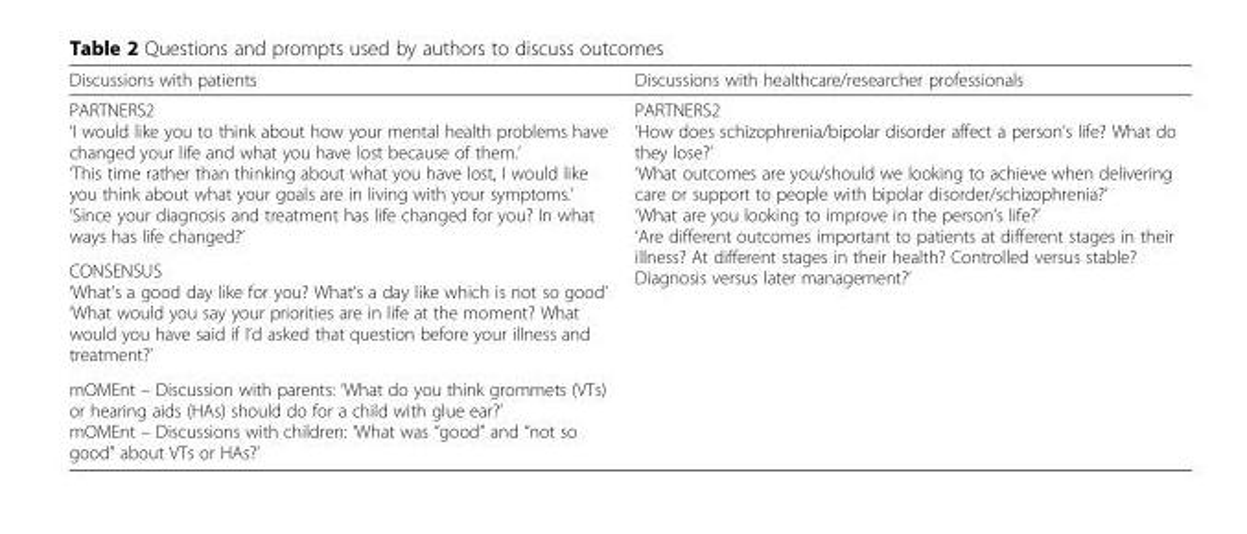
<table><thead><tr><td>Discussions with patients</td><td>Discussions with healthcare/researcher professionals</td></tr></thead><tbody><tr><td>PARTNERS2 ‘I would like you to think about how your mental health problems have changed your life and what you have lost because of them.’ ‘This time rather than thinking about what you have lost, I would like you think about what your goals are in living with your symptoms.’ ‘Since your diagnosis and treatment has life changed for you? In what ways has life changed?’ CONSENSUS ‘What’s a good day like for you? What’s a day like which is not so good’ ‘What would you say your priorities are in life at the moment? What would you have said if I’d asked that question before your illness and treatment?’ mOMEnt – Discussion with parents: ‘What do you think grommets (VTs) or hearing aids (HAs) should do for a child with glue ear?’ mOMEnt – Discussions with children: ‘What was “good” and “not so good” about VTs or HAs?’</td><td>PARTNERS2 ‘How does schizophrenia/bipolar disorder affect a person’s life? What do they lose?’ ‘What outcomes are you/should we looking to achieve when delivering care or support to people with bipolar disorder/schizophrenia?’ ‘What are you looking to improve in the person’s life?’ ‘Are different outcomes important to patients at different stages in their illness? At different stages in their health? Controlled versus stable? Diagnosis versus later management?’</td></tr></tbody></table>